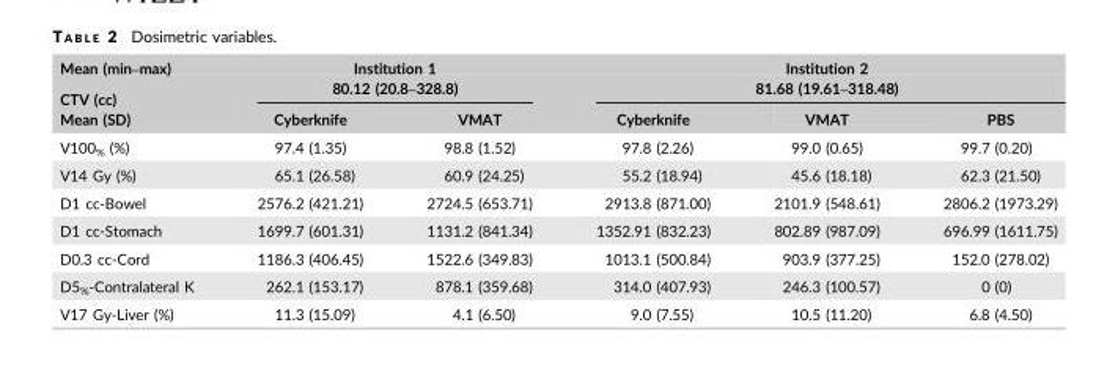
<table><thead><tr><td rowspan="3">Mean (min–max) CTV (cc) Mean (SD)</td><td rowspan="2" colspan="2">Institution 1 80.12 (20.8–328.8)</td><td rowspan="2" colspan="3">Institution 2 81.68 (19.61–318.48)</td></tr><tr></tr><tr><td>Cyberknife</td><td>VMAT</td><td>Cyberknife</td><td>VMAT</td><td>PBS</td></tr></thead><tbody><tr><td>V100<sub>%</sub> (%)</td><td>97.4 (1.35)</td><td>98.8 (1.52)</td><td>97.8 (2.26)</td><td>99.0 (0.65)</td><td>99.7 (0.20)</td></tr><tr><td>V14 Gy (%)</td><td>65.1 (26.58)</td><td>60.9 (24.25)</td><td>55.2 (18.94)</td><td>45.6 (18.18)</td><td>62.3 (21.50)</td></tr><tr><td>D1 cc-Bowel</td><td>2576.2 (421.21)</td><td>2724.5 (653.71)</td><td>2913.8 (871.00)</td><td>2101.9 (548.61)</td><td>2806.2 (1973.29)</td></tr><tr><td>D1 cc-Stomach</td><td>1699.7 (601.31)</td><td>1131.2 (841.34)</td><td>1352.91 (832.23)</td><td>802.89 (987.09)</td><td>696.99 (1611.75)</td></tr><tr><td>D0.3 cc-Cord</td><td>1186.3 (406.45)</td><td>1522.6 (349.83)</td><td>1013.1 (500.84)</td><td>903.9 (377.25)</td><td>152.0 (278.02)</td></tr><tr><td>D5<sub>%</sub>-Contralateral K</td><td>262.1 (153.17)</td><td>878.1 (359.68)</td><td>314.0 (407.93)</td><td>246.3 (100.57)</td><td>0 (0)</td></tr><tr><td>V17 Gy-Liver (%)</td><td>11.3 (15.09)</td><td>4.1 (6.50)</td><td>9.0 (7.55)</td><td>10.5 (11.20)</td><td>6.8 (4.50)</td></tr></tbody></table>